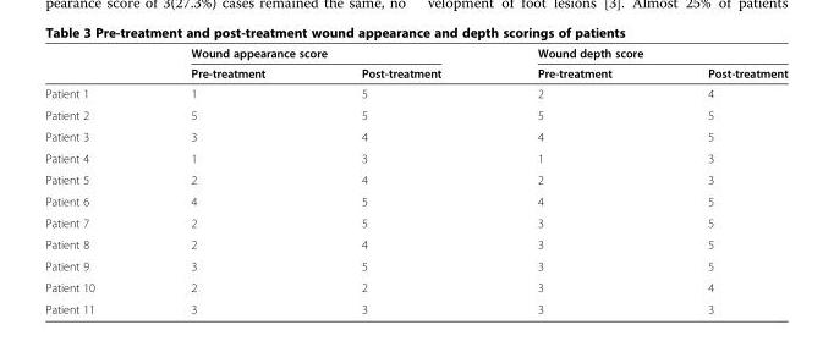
<table><thead><tr><td rowspan="2"></td><td colspan="2">Wound appearance score</td><td colspan="2">Wound depth score</td></tr><tr><td>Pre-treatment</td><td>Post-treatment</td><td>Pre-treatment</td><td>Post-treatment</td></tr></thead><tbody><tr><td>Patient 1</td><td>1</td><td>5</td><td>2</td><td>4</td></tr><tr><td>Patient 2</td><td>5</td><td>5</td><td>5</td><td>5</td></tr><tr><td>Patient 3</td><td>3</td><td>4</td><td>4</td><td>5</td></tr><tr><td>Patient 4</td><td>1</td><td>3</td><td>1</td><td>3</td></tr><tr><td>Patient 5</td><td>2</td><td>4</td><td>2</td><td>3</td></tr><tr><td>Patient 6</td><td>4</td><td>5</td><td>4</td><td>5</td></tr><tr><td>Patient 7</td><td>2</td><td>5</td><td>3</td><td>5</td></tr><tr><td>Patient 8</td><td>2</td><td>4</td><td>3</td><td>5</td></tr><tr><td>Patient 9</td><td>3</td><td>5</td><td>3</td><td>5</td></tr><tr><td>Patient 10</td><td>2</td><td>2</td><td>3</td><td>4</td></tr><tr><td>Patient 11</td><td>3</td><td>3</td><td>3</td><td>3</td></tr></tbody></table>